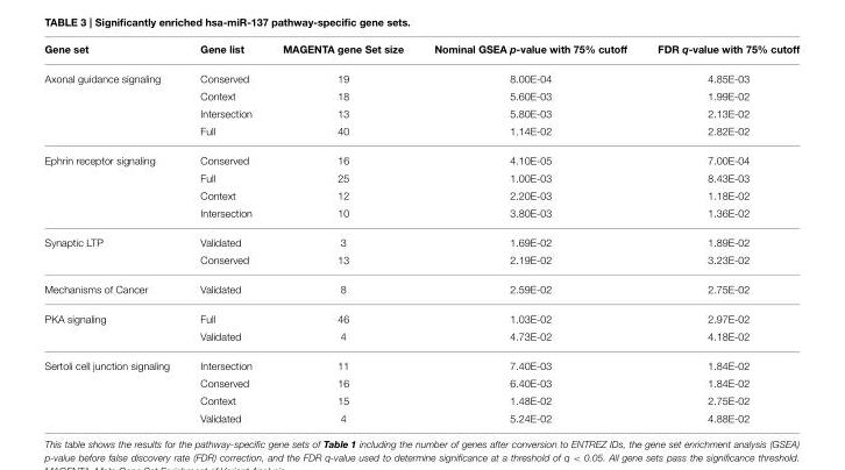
<table><thead><tr><td>Gene set</td><td>Gene list</td><td>MAGENTA gene Set size</td><td>Nominal GSEA p-value with 75% cutoff</td><td>FDR q-value with 75% cutoff</td></tr></thead><tbody><tr><td rowspan="4">Axonal guidance signaling</td><td>Conserved</td><td>19</td><td>8.00E-04</td><td>4.85E-03</td></tr><tr><td>Context</td><td>18</td><td>5.60E-03</td><td>1.99E-02</td></tr><tr><td>Intersection</td><td>13</td><td>5.80E-03</td><td>2.13E-02</td></tr><tr><td>Full</td><td>40</td><td>1.14E-02</td><td>2.82E-02</td></tr><tr><td rowspan="4">Ephrin receptor signaling</td><td>Conserved</td><td>16</td><td>4.10E-05</td><td>7.00E-04</td></tr><tr><td>Full</td><td>25</td><td>1.00E-03</td><td>8.43E-03</td></tr><tr><td>Context</td><td>12</td><td>2.20E-03</td><td>1.18E-02</td></tr><tr><td>Intersection</td><td>10</td><td>3.80E-03</td><td>1.36E-02</td></tr><tr><td rowspan="2">Synaptic LTP</td><td>Validated</td><td>3</td><td>1.69E-02</td><td>1.89E-02</td></tr><tr><td>Conserved</td><td>13</td><td>2.19E-02</td><td>3.23E-02</td></tr><tr><td>Mechanisms of Cancer</td><td>Validated</td><td>8</td><td>2.59E-02</td><td>2.75E-02</td></tr><tr><td rowspan="2">PKA signaling</td><td>Full</td><td>46</td><td>1.03E-02</td><td>2.97E-02</td></tr><tr><td>Validated</td><td>4</td><td>4.73E-02</td><td>4.18E-02</td></tr><tr><td rowspan="4">Sertoli cell junction signaling</td><td>Intersection</td><td>11</td><td>7.40E-03</td><td>1.84E-02</td></tr><tr><td>Conserved</td><td>16</td><td>6.40E-03</td><td>1.84E-02</td></tr><tr><td>Context</td><td>15</td><td>1.48E-02</td><td>2.75E-02</td></tr><tr><td>Validated</td><td>4</td><td>5.24E-02</td><td>4.88E-02</td></tr></tbody></table>